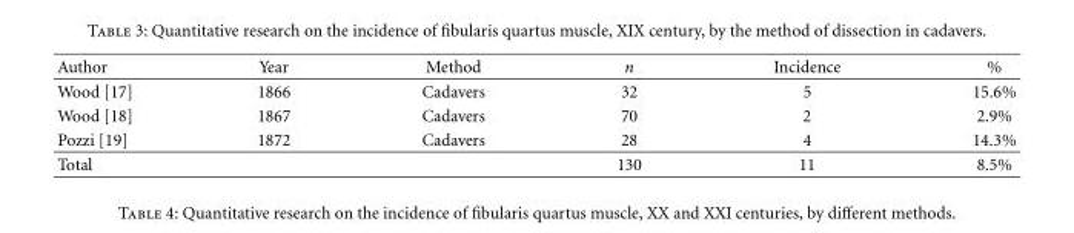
<table><thead><tr><td>Author</td><td>Year</td><td>Method</td><td>n</td><td>Incidence</td><td>%</td></tr></thead><tbody><tr><td>Wood [17]</td><td>1866</td><td>Cadavers</td><td>32</td><td>5</td><td>15.6%</td></tr><tr><td>Wood [18]</td><td>1867</td><td>Cadavers</td><td>70</td><td>2</td><td>2.9%</td></tr><tr><td>Pozzi [19]</td><td>1872</td><td>Cadavers</td><td>28</td><td>4</td><td>14.3%</td></tr><tr><td>Total</td><td></td><td></td><td>130</td><td>11</td><td>8.5%</td></tr></tbody></table>